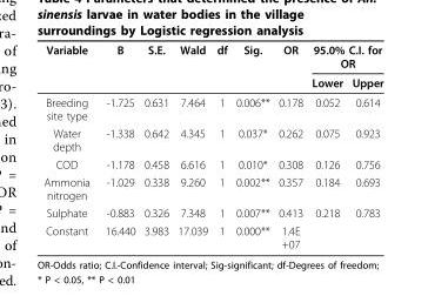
<table><thead><tr><td rowspan="2">Variable</td><td rowspan="2">B</td><td rowspan="2">S.E.</td><td rowspan="2">Wald</td><td rowspan="2">df</td><td rowspan="2">Sig.</td><td rowspan="2">OR</td><td colspan="2">95.0% C.I. for OR</td></tr><tr><td>Lower</td><td>Upper</td></tr></thead><tbody><tr><td>Breeding site type</td><td>-1.725</td><td>0.631</td><td>7.464</td><td>1</td><td>0.006**</td><td>0.178</td><td>0.052</td><td>0.614</td></tr><tr><td>Water depth</td><td>-1.338</td><td>0.642</td><td>4.345</td><td>1</td><td>0.037*</td><td>0.262</td><td>0.075</td><td>0.923</td></tr><tr><td>COD</td><td>-1.178</td><td>0.458</td><td>6.616</td><td>1</td><td>0.010*</td><td>0.308</td><td>0.126</td><td>0.756</td></tr><tr><td>Ammonia nitrogen</td><td>-1.029</td><td>0.338</td><td>9.260</td><td>1</td><td>0.002**</td><td>0.357</td><td>0.184</td><td>0.693</td></tr><tr><td>Sulphate</td><td>-0.883</td><td>0.326</td><td>7.348</td><td>1</td><td>0.007**</td><td>0.413</td><td>0.218</td><td>0.783</td></tr><tr><td>Constant</td><td>16.440</td><td>3.983</td><td>17.039</td><td>1</td><td>0.000**</td><td>1.4E +07</td><td></td><td></td></tr></tbody></table>